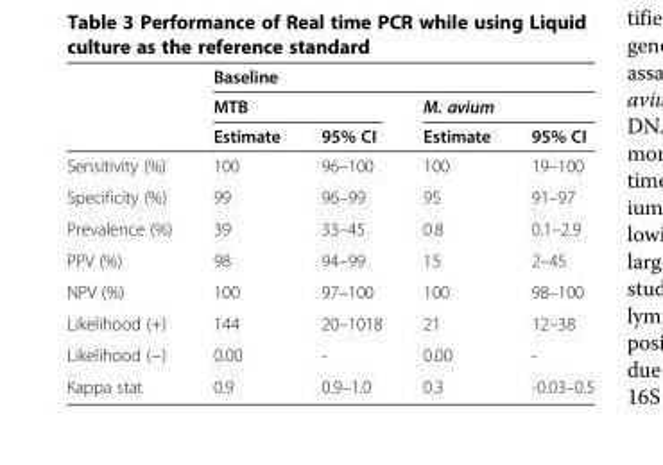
<table><thead><tr><td rowspan="3"></td><td colspan="4">Baseline</td></tr><tr><td colspan="2">MTB</td><td colspan="2">M. avium</td></tr><tr><td>Estimate</td><td>95% CI</td><td>Estimate</td><td>95% CI</td></tr></thead><tbody><tr><td>Sensitivity (%)</td><td>100</td><td>96–100</td><td>100</td><td>19–100</td></tr><tr><td>Specificity (%)</td><td>99</td><td>96–99</td><td>95</td><td>91–97</td></tr><tr><td>Prevalence (%)</td><td>39</td><td>33–45</td><td>0.8</td><td>0.1–2.9</td></tr><tr><td>PPV (%)</td><td>98</td><td>94–99</td><td>15</td><td>2–45</td></tr><tr><td>NPV (%)</td><td>100</td><td>97–100</td><td>100</td><td>98–100</td></tr><tr><td>Likelihood (+)</td><td>144</td><td>20–1018</td><td>21</td><td>12–38</td></tr><tr><td>Likelihood (−)</td><td>0.00</td><td>-</td><td>0.00</td><td>-</td></tr><tr><td>Kappa stat</td><td>0.9</td><td>0.9–1.0</td><td>0.3</td><td>-0.03–0.5</td></tr></tbody></table>